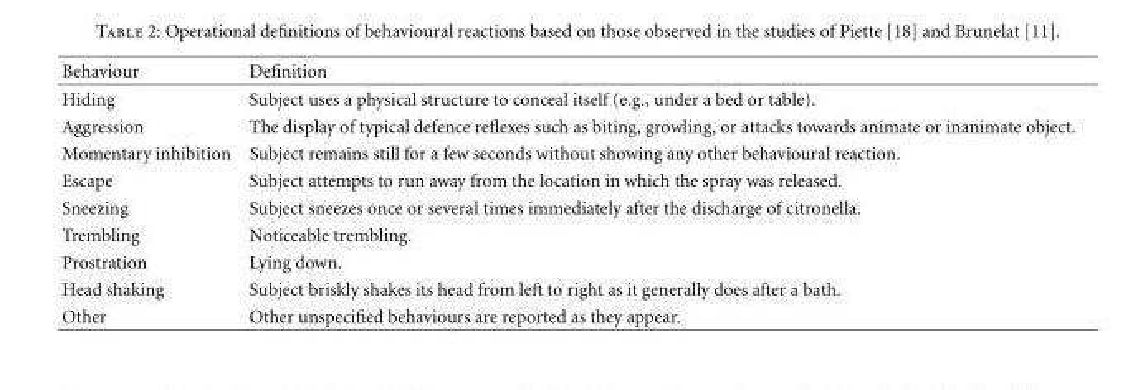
<table><thead><tr><td>Behaviour</td><td>Definition</td></tr></thead><tbody><tr><td>Hiding</td><td>Subject uses a physical structure to conceal itself (e.g., under a bed or table).</td></tr><tr><td>Aggression</td><td>The display of typical defence reflexes such as biting, growling, or attacks towards animate or inanimate object.</td></tr><tr><td>Momentary inhibition</td><td>Subject remains still for a few seconds without showing any other behavioural reaction.</td></tr><tr><td>Escape</td><td>Subject attempts to run away from the location in which the spray was released.</td></tr><tr><td>Sneezing</td><td>Subject sneezes once or several times immediately after the discharge of citronella.</td></tr><tr><td>Trembling</td><td>Noticeable trembling.</td></tr><tr><td>Prostration</td><td>Lying down.</td></tr><tr><td>Head shaking</td><td>Subject briskly shakes its head from left to right as it generally does after a bath.</td></tr><tr><td>Other</td><td>Other unspecified behaviours are reported as they appear.</td></tr></tbody></table>